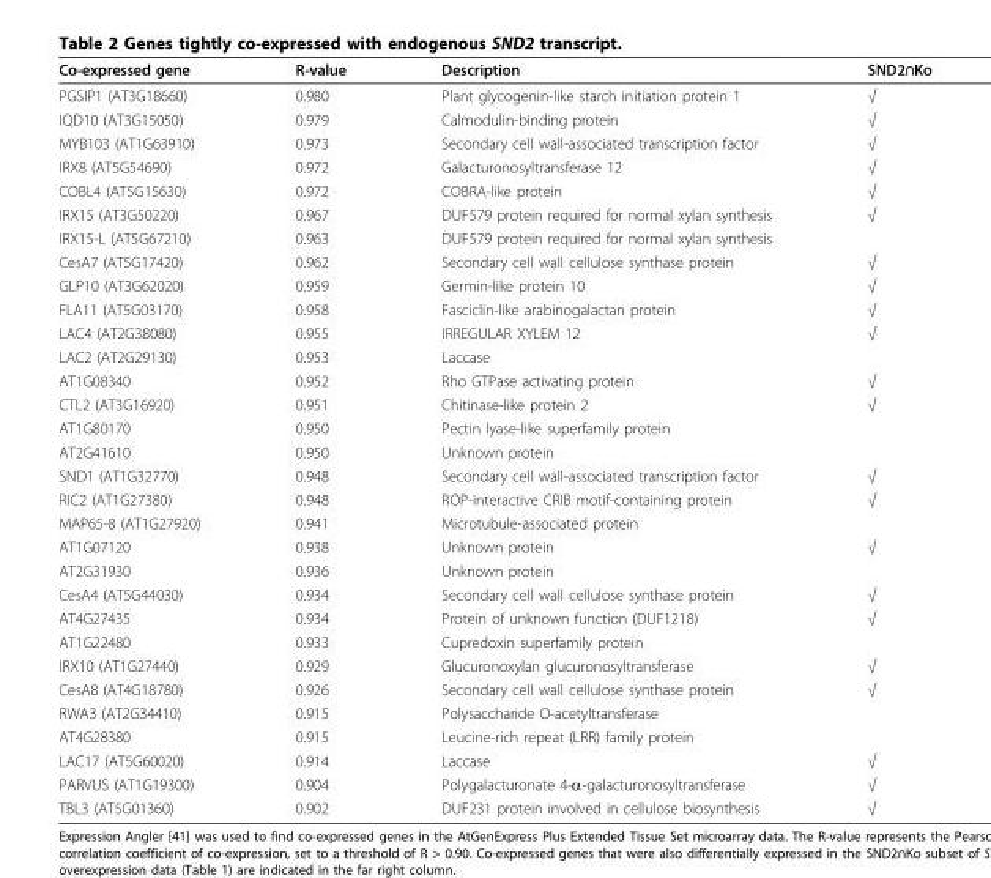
<table><thead><tr><td>Co-expressed gene</td><td>R-value</td><td>Description</td><td>SND2∩Ko</td></tr></thead><tbody><tr><td>PGSIP1 (AT3G18660)</td><td>0.980</td><td>Plant glycogenin-like starch initiation protein 1</td><td>√</td></tr><tr><td>IQD10 (AT3G15050)</td><td>0.979</td><td>Calmodulin-binding protein</td><td>√</td></tr><tr><td>MYB103 (AT1G63910)</td><td>0.973</td><td>Secondary cell wall-associated transcription factor</td><td>√</td></tr><tr><td>IRX8 (AT5G54690)</td><td>0.972</td><td>Galacturonosyltransferase 12</td><td>√</td></tr><tr><td>COBL4 (AT5G15630)</td><td>0.972</td><td>COBRA-like protein</td><td>√</td></tr><tr><td>IRX15 (AT3G50220)</td><td>0.967</td><td>DUF579 protein required for normal xylan synthesis</td><td>√</td></tr><tr><td>IRX15-L (AT5G67210)</td><td>0.963</td><td>DUF579 protein required for normal xylan synthesis</td><td></td></tr><tr><td>CesA7 (AT5G17420)</td><td>0.962</td><td>Secondary cell wall cellulose synthase protein</td><td>√</td></tr><tr><td>GLP10 (AT3G62020)</td><td>0.959</td><td>Germin-like protein 10</td><td>√</td></tr><tr><td>FLA11 (AT5G03170)</td><td>0.958</td><td>Fasciclin-like arabinogalactan protein</td><td>√</td></tr><tr><td>LAC4 (AT2G38080)</td><td>0.955</td><td>IRREGULAR XYLEM 12</td><td>√</td></tr><tr><td>LAC2 (AT2G29130)</td><td>0.953</td><td>Laccase</td><td></td></tr><tr><td>AT1G08340</td><td>0.952</td><td>Rho GTPase activating protein</td><td>√</td></tr><tr><td>CTL2 (AT3G16920)</td><td>0.951</td><td>Chitinase-like protein 2</td><td>√</td></tr><tr><td>AT1G80170</td><td>0.950</td><td>Pectin lyase-like superfamily protein</td><td></td></tr><tr><td>AT2G41610</td><td>0.950</td><td>Unknown protein</td><td></td></tr><tr><td>SND1 (AT1G32770)</td><td>0.948</td><td>Secondary cell wall-associated transcription factor</td><td>√</td></tr><tr><td>RIC2 (AT1G27380)</td><td>0.948</td><td>ROP-interactive CRIB motif-containing protein</td><td>√</td></tr><tr><td>MAP65-8 (AT1G27920)</td><td>0.941</td><td>Microtubule-associated protein</td><td></td></tr><tr><td>AT1G07120</td><td>0.938</td><td>Unknown protein</td><td>√</td></tr><tr><td>AT2G31930</td><td>0.936</td><td>Unknown protein</td><td></td></tr><tr><td>CesA4 (AT5G44030)</td><td>0.934</td><td>Secondary cell wall cellulose synthase protein</td><td>√</td></tr><tr><td>AT4G27435</td><td>0.934</td><td>Protein of unknown function (DUF1218)</td><td>√</td></tr><tr><td>AT1G22480</td><td>0.933</td><td>Cupredoxin superfamily protein</td><td></td></tr><tr><td>IRX10 (AT1G27440)</td><td>0.929</td><td>Glucuronoxylan glucuronosyltransferase</td><td>√</td></tr><tr><td>CesA8 (AT4G18780)</td><td>0.926</td><td>Secondary cell wall cellulose synthase protein</td><td>√</td></tr><tr><td>RWA3 (AT2G34410)</td><td>0.915</td><td>Polysaccharide O-acetyltransferase</td><td></td></tr><tr><td>AT4G28380</td><td>0.915</td><td>Leucine-rich repeat (LRR) family protein</td><td></td></tr><tr><td>LAC17 (AT5G60020)</td><td>0.914</td><td>Laccase</td><td>√</td></tr><tr><td>PARVUS (AT1G19300)</td><td>0.904</td><td>Polygalacturonate 4-α-galacturonosyltransferase</td><td>√</td></tr><tr><td>TBL3 (AT5G01360)</td><td>0.902</td><td>DUF231 protein involved in cellulose biosynthesis</td><td>√</td></tr></tbody></table>